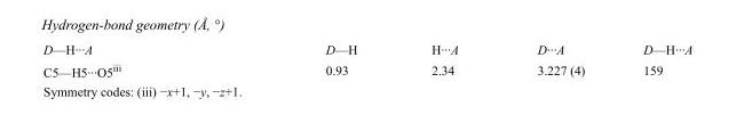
<table><tbody><tr><td>D—H···A</td><td>D—H</td><td>H···A</td><td>D···A</td><td>D—H···A</td></tr><tr><td>C5—H5···O5<sup>iii</sup></td><td>0.93</td><td>2.34</td><td>3.227 (4)</td><td>159</td></tr></tbody></table>